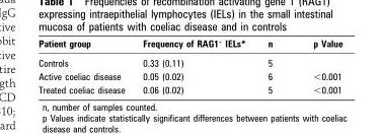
<table><thead><tr><td>Patient group</td><td>Frequency of RAG1<sup>+</sup> IELs*</td><td>n</td><td>p Value</td></tr></thead><tbody><tr><td>Controls</td><td>0.33 (0.11)</td><td>5</td><td></td></tr><tr><td>Active coeliac disease</td><td>0.05 (0.02)</td><td>6</td><td>&lt;0.001</td></tr><tr><td>Treated coeliac disease</td><td>0.06 (0.02)</td><td>5</td><td>&lt;0.001</td></tr></tbody></table>